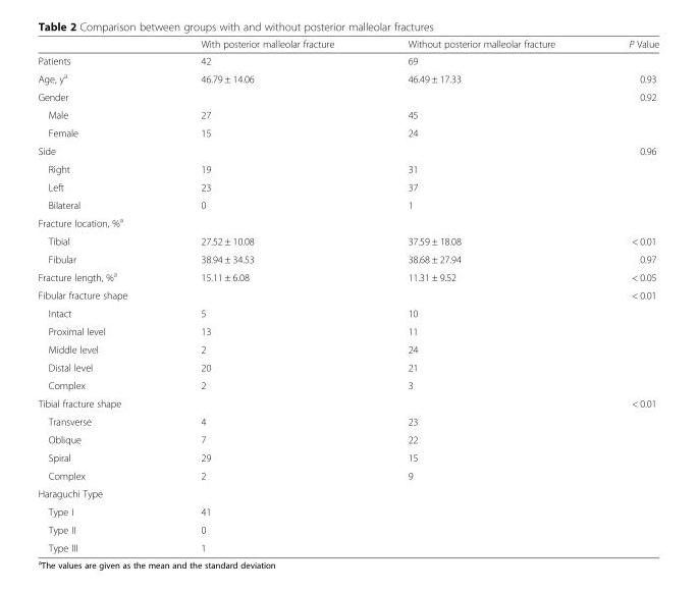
<table><thead><tr><td></td><td>With posterior malleolar fracture</td><td>Without posterior malleolar fracture</td><td>P Value</td></tr></thead><tbody><tr><td>Patients</td><td>42</td><td>69</td><td></td></tr><tr><td>Age, y<sup>a</sup></td><td>46.79 ± 14.06</td><td>46.49 ± 17.33</td><td>0.93</td></tr><tr><td>Gender</td><td></td><td></td><td>0.92</td></tr><tr><td>Male</td><td>27</td><td>45</td><td></td></tr><tr><td>Female</td><td>15</td><td>24</td><td></td></tr><tr><td>Side</td><td></td><td></td><td>0.96</td></tr><tr><td>Right</td><td>19</td><td>31</td><td></td></tr><tr><td>Left</td><td>23</td><td>37</td><td></td></tr><tr><td>Bilateral</td><td>0</td><td>1</td><td></td></tr><tr><td colspan="4">Fracture location, %<sup>a</sup></td></tr><tr><td>Tibial</td><td>27.52 ± 10.08</td><td>37.59 ± 18.08</td><td>&lt; 0.01</td></tr><tr><td>Fibular</td><td>38.94 ± 34.53</td><td>38.68 ± 27.94</td><td>0.97</td></tr><tr><td>Fracture length, %<sup>a</sup></td><td>15.11 ± 6.08</td><td>11.31 ± 9.52</td><td>&lt; 0.05</td></tr><tr><td>Fibular fracture shape</td><td></td><td></td><td>&lt; 0.01</td></tr><tr><td>Intact</td><td>5</td><td>10</td><td></td></tr><tr><td>Proximal level</td><td>13</td><td>11</td><td></td></tr><tr><td>Middle level</td><td>2</td><td>24</td><td></td></tr><tr><td>Distal level</td><td>20</td><td>21</td><td></td></tr><tr><td>Complex</td><td>2</td><td>3</td><td></td></tr><tr><td>Tibial fracture shape</td><td></td><td></td><td>&lt; 0.01</td></tr><tr><td>Transverse</td><td>4</td><td>23</td><td></td></tr><tr><td>Oblique</td><td>7</td><td>22</td><td></td></tr><tr><td>Spiral</td><td>29</td><td>15</td><td></td></tr><tr><td>Complex</td><td>2</td><td>9</td><td></td></tr><tr><td colspan="4">Haraguchi Type</td></tr><tr><td>Type I</td><td>41</td><td></td><td></td></tr><tr><td>Type II</td><td>0</td><td></td><td></td></tr><tr><td>Type III</td><td>1</td><td></td><td></td></tr></tbody></table>